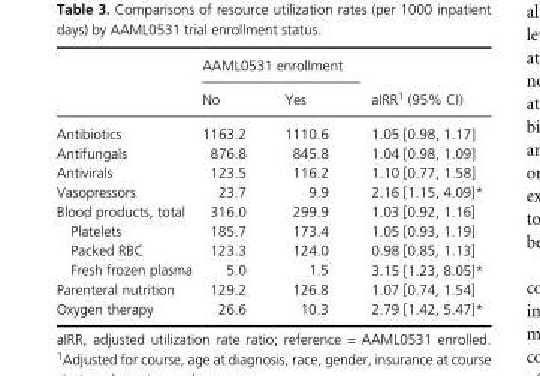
<table><thead><tr><td rowspan="2"></td><td colspan="2">AAML0531 enrollment</td><td rowspan="2">aIRR1 (95% CI)</td></tr><tr><td>No</td><td>Yes</td></tr></thead><tbody><tr><td>Antibiotics</td><td>1163.2</td><td>1110.6</td><td>1.05 [0.98, 1.17]</td></tr><tr><td>Antifungals</td><td>876.8</td><td>845.8</td><td>1.04 [0.98, 1.09]</td></tr><tr><td>Antivirals</td><td>123.5</td><td>116.2</td><td>1.10 [0.77, 1.58]</td></tr><tr><td>Vasopressors</td><td>23.7</td><td>9.9</td><td>2.16 [1.15, 4.09]*</td></tr><tr><td>Blood products, total</td><td>316.0</td><td>299.9</td><td>1.03 [0.92, 1.16]</td></tr><tr><td>Platelets</td><td>185.7</td><td>173.4</td><td>1.05 [0.93, 1.19]</td></tr><tr><td>Packed RBC</td><td>123.3</td><td>124.0</td><td>0.98 [0.85, 1.13]</td></tr><tr><td>Fresh frozen plasma</td><td>5.0</td><td>1.5</td><td>3.15 [1.23, 8.05]*</td></tr><tr><td>Parenteral nutrition</td><td>129.2</td><td>126.8</td><td>1.07 [0.74, 1.54]</td></tr><tr><td>Oxygen therapy</td><td>26.6</td><td>10.3</td><td>2.79 [1.42, 5.47]*</td></tr></tbody></table>